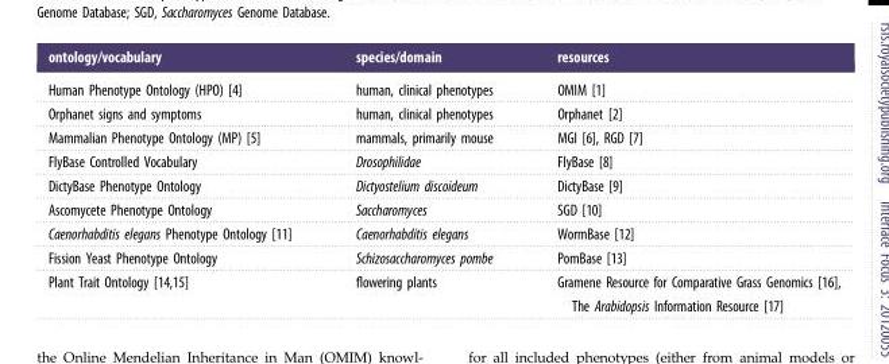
<table><thead><tr><td>ontology/vocabulary</td><td>species/domain</td><td>resources</td></tr></thead><tbody><tr><td>Human Phenotype Ontology (HPO) [4]</td><td>human, clinical phenotypes</td><td>OMIM [1]</td></tr><tr><td>Orphanet signs and symptoms</td><td>human, clinical phenotypes</td><td>Orphanet [2]</td></tr><tr><td>Mammalian Phenotype Ontology (MP) [5]</td><td>mammals, primarily mouse</td><td>MGI [6], RGD [7]</td></tr><tr><td>FlyBase Controlled Vocabulary</td><td>Drosophilidae</td><td>FlyBase [8]</td></tr><tr><td>DictyBase Phenotype Ontology</td><td>Dictyostelium discoideum</td><td>DictyBase [9]</td></tr><tr><td>Ascomycete Phenotype Ontology</td><td>Saccharomyces</td><td>SGD [10]</td></tr><tr><td>Caenorhabditis elegans Phenotype Ontology [11]</td><td>Caenorhabditis elegans</td><td>WormBase [12]</td></tr><tr><td>Fission Yeast Phenotype Ontology</td><td>Schizosaccharomyces pombe</td><td>PomBase [13]</td></tr><tr><td>Plant Trait Ontology [14,15]</td><td>flowering plants</td><td>Gramene Resource for Comparative Grass Genomics [16], The Arabidopsis Information Resource [17]</td></tr></tbody></table>